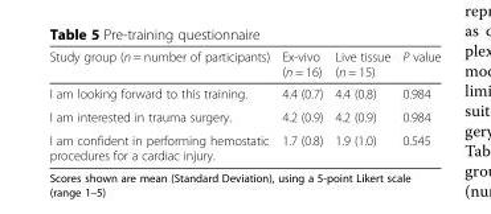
<table><thead><tr><td>Study group (n = number of participants)</td><td>Ex-vivo (n = 16)</td><td>Live tissue (n = 15)</td><td>P value</td></tr></thead><tbody><tr><td>I am looking forward to this training.</td><td>4.4 (0.7)</td><td>4.4 (0.8)</td><td>0.984</td></tr><tr><td>I am interested in trauma surgery.</td><td>4.2 (0.9)</td><td>4.2 (0.9)</td><td>0.984</td></tr><tr><td>I am confident in performing hemostatic procedures for a cardiac injury.</td><td>1.7 (0.8)</td><td>1.9 (1.0)</td><td>0.545</td></tr></tbody></table>